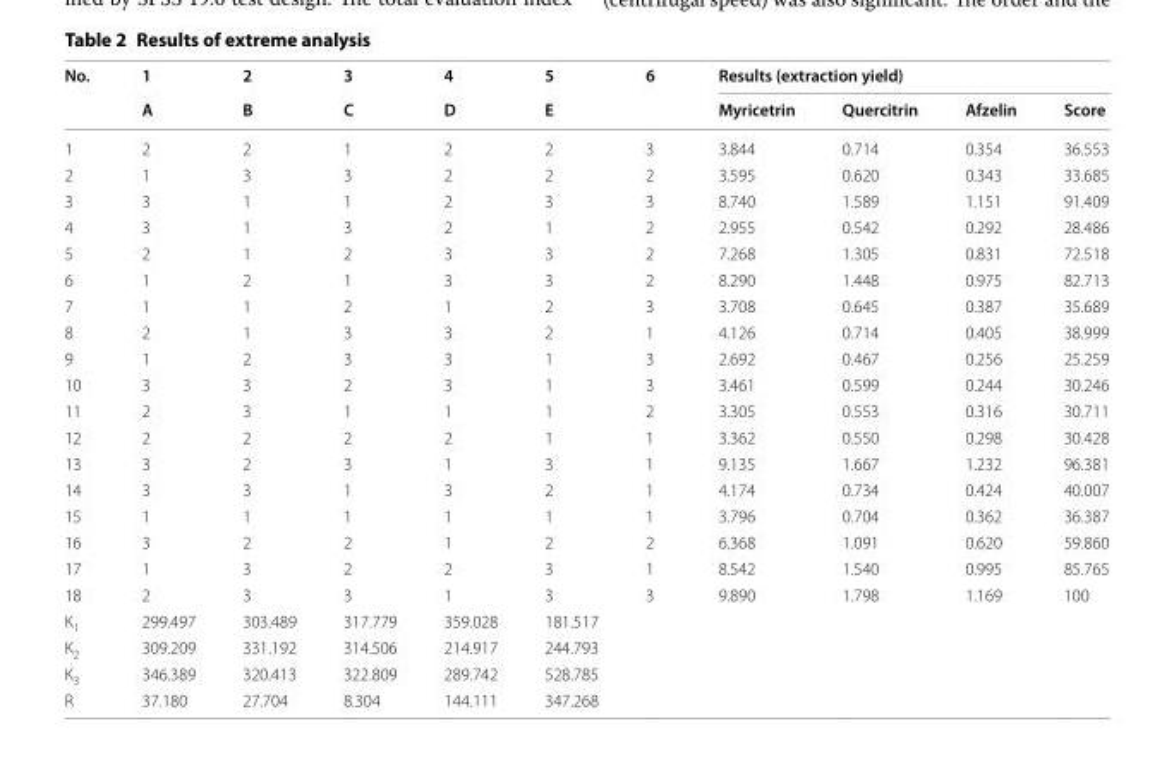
<table><thead><tr><td rowspan="2">No.</td><td rowspan="2">1 A</td><td rowspan="2">2 B</td><td rowspan="2">3 C</td><td rowspan="2">4 D</td><td rowspan="2">5 E</td><td rowspan="2">6</td><td colspan="4">Results (extraction yield)</td></tr><tr><td>Myricetrin</td><td>Quercitrin</td><td>Afzelin</td><td>Score</td></tr></thead><tbody><tr><td>1</td><td>2</td><td>2</td><td>1</td><td>2</td><td>2</td><td>3</td><td>3.844</td><td>0.714</td><td>0.354</td><td>36.553</td></tr><tr><td>2</td><td>1</td><td>3</td><td>3</td><td>2</td><td>2</td><td>2</td><td>3.595</td><td>0.620</td><td>0.343</td><td>33.685</td></tr><tr><td>3</td><td>3</td><td>1</td><td>1</td><td>2</td><td>3</td><td>3</td><td>8.740</td><td>1.589</td><td>1.151</td><td>91.409</td></tr><tr><td>4</td><td>3</td><td>1</td><td>3</td><td>2</td><td>1</td><td>2</td><td>2.955</td><td>0.542</td><td>0.292</td><td>28.486</td></tr><tr><td>5</td><td>2</td><td>1</td><td>2</td><td>3</td><td>3</td><td>2</td><td>7.268</td><td>1.305</td><td>0.831</td><td>72.518</td></tr><tr><td>6</td><td>1</td><td>2</td><td>1</td><td>3</td><td>3</td><td>2</td><td>8.290</td><td>1.448</td><td>0.975</td><td>82.713</td></tr><tr><td>7</td><td>1</td><td>1</td><td>2</td><td>1</td><td>2</td><td>3</td><td>3.708</td><td>0.645</td><td>0.387</td><td>35.689</td></tr><tr><td>8</td><td>2</td><td>1</td><td>3</td><td>3</td><td>2</td><td>1</td><td>4.126</td><td>0.714</td><td>0.405</td><td>38.999</td></tr><tr><td>9</td><td>1</td><td>2</td><td>3</td><td>3</td><td>1</td><td>3</td><td>2.692</td><td>0.467</td><td>0.256</td><td>25.259</td></tr><tr><td>10</td><td>3</td><td>3</td><td>2</td><td>3</td><td>1</td><td>3</td><td>3.461</td><td>0.599</td><td>0.244</td><td>30.246</td></tr><tr><td>11</td><td>2</td><td>3</td><td>1</td><td>1</td><td>1</td><td>2</td><td>3.305</td><td>0.553</td><td>0.316</td><td>30.711</td></tr><tr><td>12</td><td>2</td><td>2</td><td>2</td><td>2</td><td>1</td><td>1</td><td>3.362</td><td>0.550</td><td>0.298</td><td>30.428</td></tr><tr><td>13</td><td>3</td><td>2</td><td>3</td><td>1</td><td>3</td><td>1</td><td>9.135</td><td>1.667</td><td>1.232</td><td>96.381</td></tr><tr><td>14</td><td>3</td><td>3</td><td>1</td><td>3</td><td>2</td><td>1</td><td>4.174</td><td>0.734</td><td>0.424</td><td>40.007</td></tr><tr><td>15</td><td>1</td><td>1</td><td>1</td><td>1</td><td>1</td><td>1</td><td>3.796</td><td>0.704</td><td>0.362</td><td>36.387</td></tr><tr><td>16</td><td>3</td><td>2</td><td>2</td><td>1</td><td>2</td><td>2</td><td>6.368</td><td>1.091</td><td>0.620</td><td>59.860</td></tr><tr><td>17</td><td>1</td><td>3</td><td>2</td><td>2</td><td>3</td><td>1</td><td>8.542</td><td>1.540</td><td>0.995</td><td>85.765</td></tr><tr><td>18</td><td>2</td><td>3</td><td>3</td><td>1</td><td>3</td><td>3</td><td>9.890</td><td>1.798</td><td>1.169</td><td>100</td></tr><tr><td>K<sub>1</sub></td><td>299.497</td><td>303.489</td><td>317.779</td><td>359.028</td><td>181.517</td><td></td><td></td><td></td><td></td><td></td></tr><tr><td>K<sub>2</sub></td><td>309.209</td><td>331.192</td><td>314.506</td><td>214.917</td><td>244.793</td><td></td><td></td><td></td><td></td><td></td></tr><tr><td>K<sub>3</sub></td><td>346.389</td><td>320.413</td><td>322.809</td><td>289.742</td><td>528.785</td><td></td><td></td><td></td><td></td><td></td></tr><tr><td>R</td><td>37.180</td><td>27.704</td><td>8.304</td><td>144.111</td><td>347.268</td><td></td><td></td><td></td><td></td><td></td></tr></tbody></table>